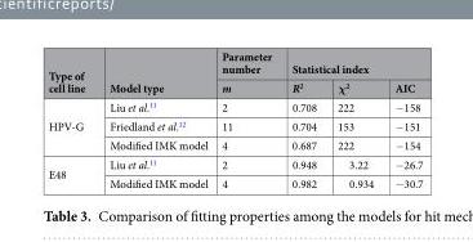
<table><thead><tr><td rowspan="2">Type of cell line</td><td rowspan="2">Model type</td><td rowspan="2">Parameter number m</td><td colspan="3">Statistical index</td></tr><tr><td>R<sup>2</sup></td><td>χ<sup>2</sup></td><td>AIC</td></tr></thead><tbody><tr><td rowspan="3">HPV-G</td><td>Liu et al.<sup>11</sup></td><td>2</td><td>0.708</td><td>222</td><td>−158</td></tr><tr><td>Friedland et al.<sup>12</sup></td><td>11</td><td>0.704</td><td>153</td><td>−151</td></tr><tr><td>Modified IMK model</td><td>4</td><td>0.687</td><td>222</td><td>−154</td></tr><tr><td rowspan="2">E48</td><td>Liu et al.<sup>11</sup></td><td>2</td><td>0.948</td><td>3.22</td><td>−26.7</td></tr><tr><td>Modified IMK model</td><td>4</td><td>0.982</td><td>0.934</td><td>−30.7</td></tr></tbody></table>